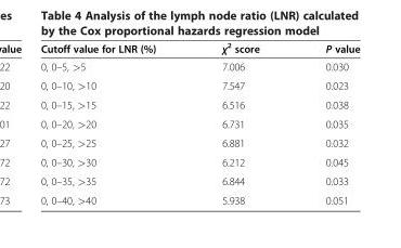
<table><thead><tr><td>Cutoff value for LNR (%)</td><td>χ<sup>2</sup> score</td><td>P value</td></tr></thead><tbody><tr><td>0, 0–5, &gt;5</td><td>7.006</td><td>0.030</td></tr><tr><td>0, 0–10, &gt;10</td><td>7.547</td><td>0.023</td></tr><tr><td>0, 0–15, &gt;15</td><td>6.516</td><td>0.038</td></tr><tr><td>0, 0–20, &gt;20</td><td>6.731</td><td>0.035</td></tr><tr><td>0, 0–25, &gt;25</td><td>6.881</td><td>0.032</td></tr><tr><td>0, 0–30, &gt;30</td><td>6.212</td><td>0.045</td></tr><tr><td>0, 0–35, &gt;35</td><td>6.844</td><td>0.033</td></tr><tr><td>0, 0–40, &gt;40</td><td>5.938</td><td>0.051</td></tr></tbody></table>